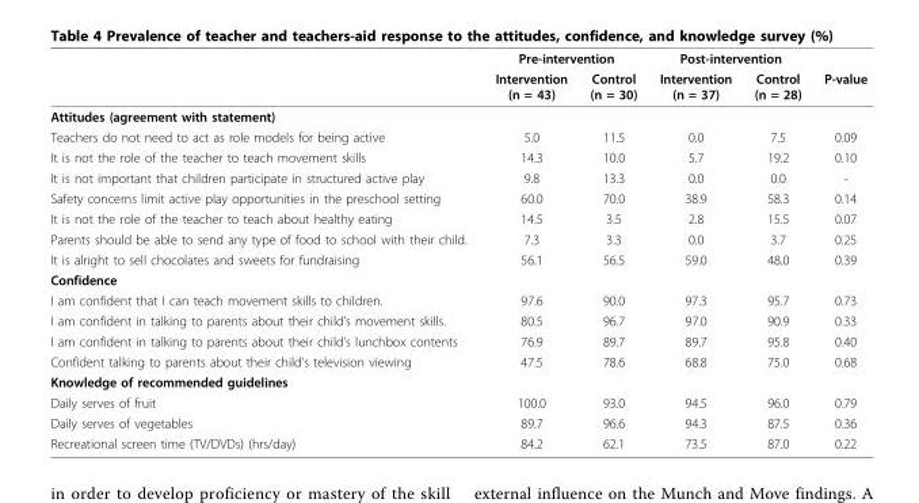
<table><thead><tr><td rowspan="2"></td><td colspan="2">Pre-intervention</td><td colspan="2">Post-intervention</td><td rowspan="2">P-value</td></tr><tr><td>Intervention (n = 43)</td><td>Control (n = 30)</td><td>Intervention (n = 37)</td><td>Control (n = 28)</td></tr></thead><tbody><tr><td colspan="6">Attitudes (agreement with statement)</td></tr><tr><td>Teachers do not need to act as role models for being active</td><td>5.0</td><td>11.5</td><td>0.0</td><td>7.5</td><td>0.09</td></tr><tr><td>It is not the role of the teacher to teach movement skills</td><td>14.3</td><td>10.0</td><td>5.7</td><td>19.2</td><td>0.10</td></tr><tr><td>It is not important that children participate in structured active play</td><td>9.8</td><td>13.3</td><td>0.0</td><td>0.0</td><td>-</td></tr><tr><td>Safety concerns limit active play opportunities in the preschool setting</td><td>60.0</td><td>70.0</td><td>38.9</td><td>58.3</td><td>0.14</td></tr><tr><td>It is not the role of the teacher to teach about healthy eating</td><td>14.5</td><td>3.5</td><td>2.8</td><td>15.5</td><td>0.07</td></tr><tr><td>Parents should be able to send any type of food to school with their child.</td><td>7.3</td><td>3.3</td><td>0.0</td><td>3.7</td><td>0.25</td></tr><tr><td>It is alright to sell chocolates and sweets for fundraising</td><td>56.1</td><td>56.5</td><td>59.0</td><td>48.0</td><td>0.39</td></tr><tr><td colspan="6">Confidence</td></tr><tr><td>I am confident that I can teach movement skills to children.</td><td>97.6</td><td>90.0</td><td>97.3</td><td>95.7</td><td>0.73</td></tr><tr><td>I am confident in talking to parents about their child’s movement skills.</td><td>80.5</td><td>96.7</td><td>97.0</td><td>90.9</td><td>0.33</td></tr><tr><td>I am confident in talking to parents about their child’s lunchbox contents</td><td>76.9</td><td>89.7</td><td>89.7</td><td>95.8</td><td>0.40</td></tr><tr><td>Confident talking to parents about their child’s television viewing</td><td>47.5</td><td>78.6</td><td>68.8</td><td>75.0</td><td>0.68</td></tr><tr><td colspan="6">Knowledge of recommended guidelines</td></tr><tr><td>Daily serves of fruit</td><td>100.0</td><td>93.0</td><td>94.5</td><td>96.0</td><td>0.79</td></tr><tr><td>Daily serves of vegetables</td><td>89.7</td><td>96.6</td><td>94.3</td><td>87.5</td><td>0.36</td></tr><tr><td>Recreational screen time (TV/DVDs) (hrs/day)</td><td>84.2</td><td>62.1</td><td>73.5</td><td>87.0</td><td>0.22</td></tr></tbody></table>